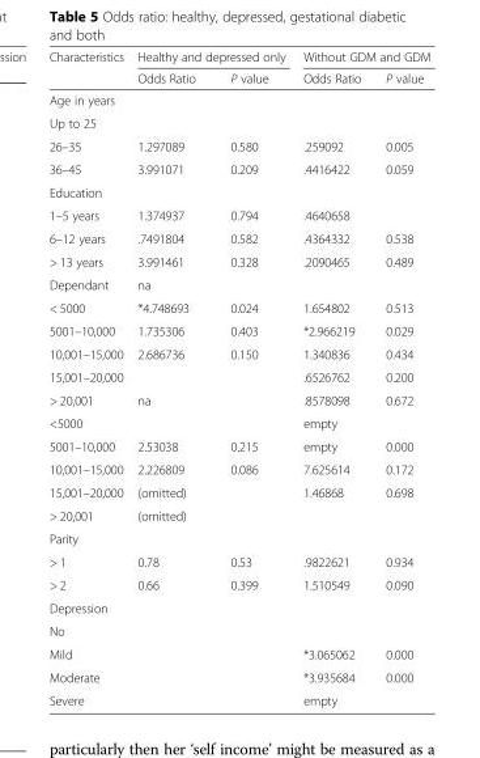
<table><thead><tr><td rowspan="2">Characteristics</td><td colspan="2">Healthy and depressed only</td><td colspan="2">Without GDM and GDM</td></tr><tr><td>Odds Ratio</td><td>P value</td><td>Odds Ratio</td><td>P value</td></tr></thead><tbody><tr><td colspan="5">Age in years</td></tr><tr><td colspan="5">Up to 25</td></tr><tr><td>26–35</td><td>1.297089</td><td>0.580</td><td>.259092</td><td>0.005</td></tr><tr><td>36–45</td><td>3.991071</td><td>0.209</td><td>.4416422</td><td>0.059</td></tr><tr><td colspan="5">Education</td></tr><tr><td>1–5 years</td><td>1.374937</td><td>0.794</td><td>.4640658</td><td></td></tr><tr><td>6–12 years</td><td>.7491804</td><td>0.582</td><td>.4364332</td><td>0.538</td></tr><tr><td>&gt; 13 years</td><td>3.991461</td><td>0.328</td><td>.2090465</td><td>0.489</td></tr><tr><td>Dependant</td><td>na</td><td></td><td></td><td></td></tr><tr><td>&lt; 5000</td><td>*4.748693</td><td>0.024</td><td>1.654802</td><td>0.513</td></tr><tr><td>5001–10,000</td><td>1.735306</td><td>0.403</td><td>*2.966219</td><td>0.029</td></tr><tr><td>10,001–15,000</td><td>2.686736</td><td>0.150</td><td>1.340836</td><td>0.434</td></tr><tr><td>15,001–20,000</td><td></td><td></td><td>.6526762</td><td>0.200</td></tr><tr><td>&gt; 20,001</td><td>na</td><td></td><td>.8578098</td><td>0.672</td></tr><tr><td>&lt;5000</td><td></td><td></td><td>empty</td><td></td></tr><tr><td>5001–10,000</td><td>2.53038</td><td>0.215</td><td>empty</td><td>0.000</td></tr><tr><td>10,001–15,000</td><td>2.226809</td><td>0.086</td><td>7.625614</td><td>0.172</td></tr><tr><td>15,001–20,000</td><td>(omitted)</td><td></td><td>1.46868</td><td>0.698</td></tr><tr><td>&gt; 20,001</td><td>(omitted)</td><td></td><td></td><td></td></tr><tr><td colspan="5">Parity</td></tr><tr><td>&gt; 1</td><td>0.78</td><td>0.53</td><td>.9822621</td><td>0.934</td></tr><tr><td>&gt; 2</td><td>0.66</td><td>0.399</td><td>1.510549</td><td>0.090</td></tr><tr><td colspan="5">Depression</td></tr><tr><td colspan="5">No</td></tr><tr><td>Mild</td><td></td><td></td><td>*3.065062</td><td>0.000</td></tr><tr><td>Moderate</td><td></td><td></td><td>*3.935684</td><td>0.000</td></tr><tr><td>Severe</td><td></td><td></td><td>empty</td><td></td></tr></tbody></table>